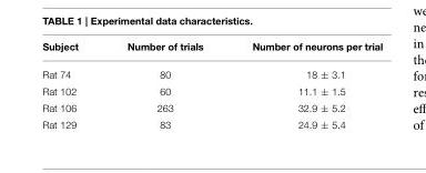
<table><thead><tr><td>Subject</td><td>Number of trials</td><td>Number of neurons per trial</td></tr></thead><tbody><tr><td>Rat 74</td><td>80</td><td>18 ± 3.1</td></tr><tr><td>Rat 102</td><td>60</td><td>11.1 ± 1.5</td></tr><tr><td>Rat 106</td><td>263</td><td>32.9 ± 5.2</td></tr><tr><td>Rat 129</td><td>83</td><td>24.9 ± 5.4</td></tr></tbody></table>